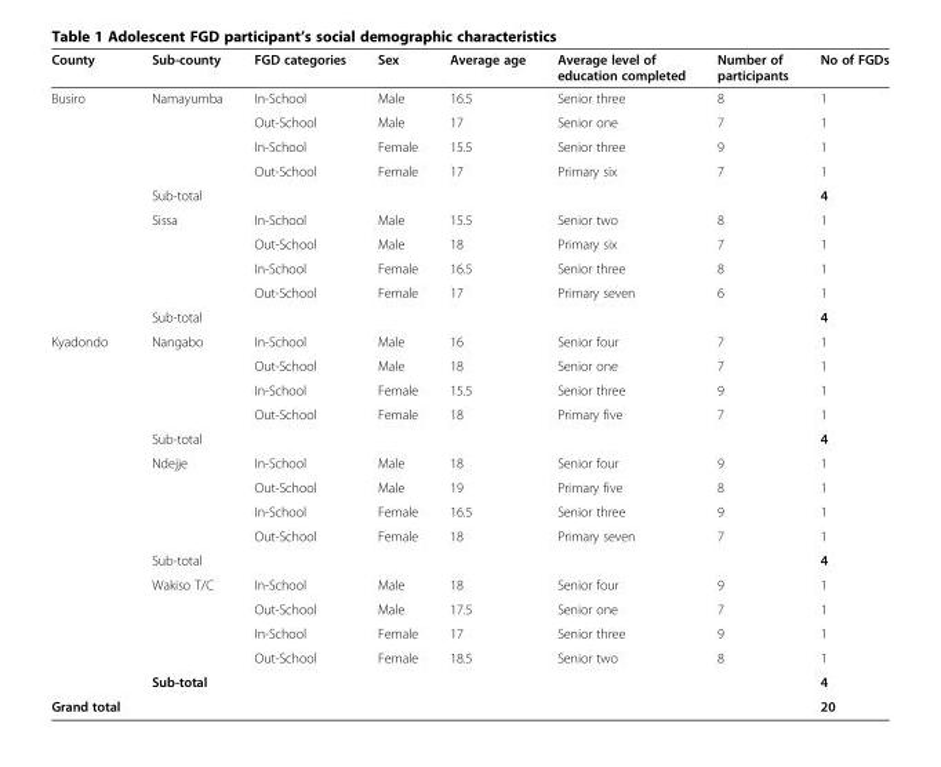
<table><thead><tr><td>County</td><td>Sub-county</td><td>FGD categories</td><td>Sex</td><td>Average age</td><td>Average level of education completed</td><td>Number of participants</td><td>No of FGDs</td></tr></thead><tbody><tr><td rowspan="10">Busiro</td><td>Namayumba</td><td>In-School</td><td>Male</td><td>16.5</td><td>Senior three</td><td>8</td><td>1</td></tr><tr><td></td><td>Out-School</td><td>Male</td><td>17</td><td>Senior one</td><td>7</td><td>1</td></tr><tr><td></td><td>In-School</td><td>Female</td><td>15.5</td><td>Senior three</td><td>9</td><td>1</td></tr><tr><td></td><td>Out-School</td><td>Female</td><td>17</td><td>Primary six</td><td>7</td><td>1</td></tr><tr><td>Sub-total</td><td></td><td></td><td></td><td></td><td></td><td>4</td></tr><tr><td>Sissa</td><td>In-School</td><td>Male</td><td>15.5</td><td>Senior two</td><td>8</td><td>1</td></tr><tr><td></td><td>Out-School</td><td>Male</td><td>18</td><td>Primary six</td><td>7</td><td>1</td></tr><tr><td></td><td>In-School</td><td>Female</td><td>16.5</td><td>Senior three</td><td>8</td><td>1</td></tr><tr><td></td><td>Out-School</td><td>Female</td><td>17</td><td>Primary seven</td><td>6</td><td>1</td></tr><tr><td>Sub-total</td><td></td><td></td><td></td><td></td><td></td><td>4</td></tr><tr><td rowspan="15">Kyadondo</td><td>Nangabo</td><td>In-School</td><td>Male</td><td>16</td><td>Senior four</td><td>7</td><td>1</td></tr><tr><td></td><td>Out-School</td><td>Male</td><td>18</td><td>Senior one</td><td>7</td><td>1</td></tr><tr><td></td><td>In-School</td><td>Female</td><td>15.5</td><td>Senior three</td><td>9</td><td>1</td></tr><tr><td></td><td>Out-School</td><td>Female</td><td>18</td><td>Primary five</td><td>7</td><td>1</td></tr><tr><td>Sub-total</td><td></td><td></td><td></td><td></td><td></td><td>4</td></tr><tr><td>Ndejje</td><td>In-School</td><td>Male</td><td>18</td><td>Senior four</td><td>9</td><td>1</td></tr><tr><td></td><td>Out-School</td><td>Male</td><td>19</td><td>Primary five</td><td>8</td><td>1</td></tr><tr><td></td><td>In-School</td><td>Female</td><td>16.5</td><td>Senior three</td><td>9</td><td>1</td></tr><tr><td></td><td>Out-School</td><td>Female</td><td>18</td><td>Primary seven</td><td>7</td><td>1</td></tr><tr><td>Sub-total</td><td></td><td></td><td></td><td></td><td></td><td>4</td></tr><tr><td>Wakiso T/C</td><td>In-School</td><td>Male</td><td>18</td><td>Senior four</td><td>9</td><td>1</td></tr><tr><td></td><td>Out-School</td><td>Male</td><td>17.5</td><td>Senior one</td><td>7</td><td>1</td></tr><tr><td></td><td>In-School</td><td>Female</td><td>17</td><td>Senior three</td><td>9</td><td>1</td></tr><tr><td></td><td>Out-School</td><td>Female</td><td>18.5</td><td>Senior two</td><td>8</td><td>1</td></tr><tr><td>Sub-total</td><td></td><td></td><td></td><td></td><td></td><td>4</td></tr><tr><td>Grand total</td><td></td><td></td><td></td><td></td><td></td><td></td><td>20</td></tr></tbody></table>